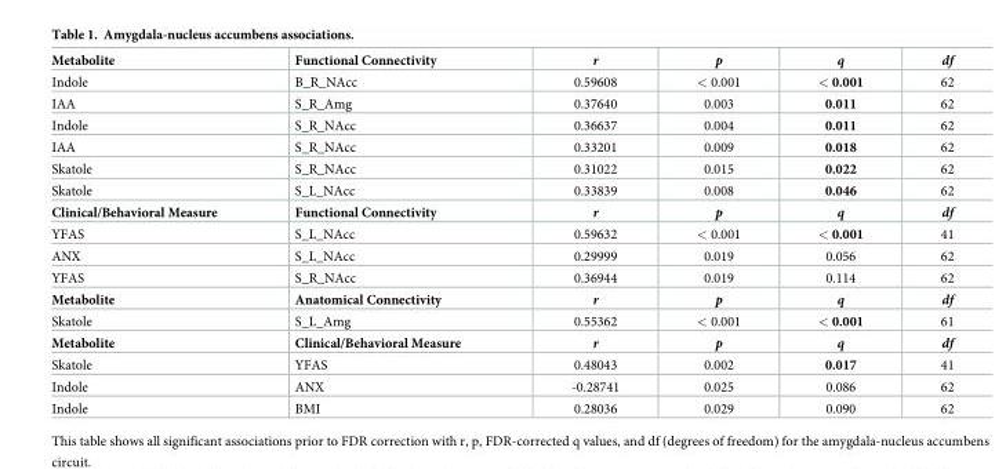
<table><tbody><tr><td>Metabolite</td><td>Functional Connectivity</td><td>r</td><td>p</td><td>q</td><td>df</td></tr><tr><td>Indole</td><td>B_R_NAcc</td><td>0.59608</td><td>&lt; 0.001</td><td>&lt; 0.001</td><td>62</td></tr><tr><td>IAA</td><td>S_R_Amg</td><td>0.37640</td><td>0.003</td><td>0.011</td><td>62</td></tr><tr><td>Indole</td><td>S_R_NAcc</td><td>0.36637</td><td>0.004</td><td>0.011</td><td>62</td></tr><tr><td>IAA</td><td>S_R_NAcc</td><td>0.33201</td><td>0.009</td><td>0.018</td><td>62</td></tr><tr><td>Skatole</td><td>S_R_NAcc</td><td>0.31022</td><td>0.015</td><td>0.022</td><td>62</td></tr><tr><td>Skatole</td><td>S_L_NAcc</td><td>0.33839</td><td>0.008</td><td>0.046</td><td>62</td></tr><tr><td>Clinical/Behavioral Measure</td><td>Functional Connectivity</td><td>r</td><td>p</td><td>q</td><td>df</td></tr><tr><td>YFAS</td><td>S_L_NAcc</td><td>0.59632</td><td>&lt; 0.001</td><td>&lt; 0.001</td><td>41</td></tr><tr><td>ANX</td><td>S_L_NAcc</td><td>0.29999</td><td>0.019</td><td>0.056</td><td>62</td></tr><tr><td>YFAS</td><td>S_R_NAcc</td><td>0.36944</td><td>0.019</td><td>0.114</td><td>62</td></tr><tr><td>Metabolite</td><td>Anatomical Connectivity</td><td>r</td><td>p</td><td>q</td><td>df</td></tr><tr><td>Skatole</td><td>S_L_Amg</td><td>0.55362</td><td>&lt; 0.001</td><td>&lt; 0.001</td><td>61</td></tr><tr><td>Metabolite</td><td>Clinical/Behavioral Measure</td><td>r</td><td>p</td><td>q</td><td>df</td></tr><tr><td>Skatole</td><td>YFAS</td><td>0.48043</td><td>0.002</td><td>0.017</td><td>41</td></tr><tr><td>Indole</td><td>ANX</td><td>-0.28741</td><td>0.025</td><td>0.086</td><td>62</td></tr><tr><td>Indole</td><td>BMI</td><td>0.28036</td><td>0.029</td><td>0.090</td><td>62</td></tr></tbody></table>